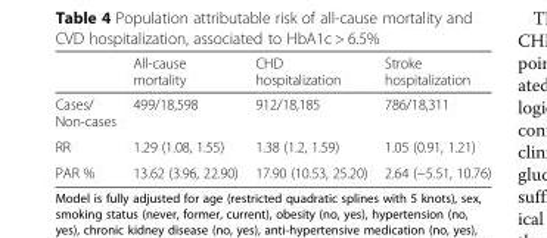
<table><thead><tr><td></td><td>All-cause mortality</td><td>CHD hospitalization</td><td>Stroke hospitalization</td></tr></thead><tbody><tr><td>Cases/ Non-cases</td><td>499/18,598</td><td>912/18,185</td><td>786/18,311</td></tr><tr><td>RR</td><td>1.29 (1.08, 1.55)</td><td>1.38 (1.2, 1.59)</td><td>1.05 (0.91, 1.21)</td></tr><tr><td>PAR %</td><td>13.62 (3.96, 22.90)</td><td>17.90 (10.53, 25.20)</td><td>2.64 (−5.51, 10.76)</td></tr></tbody></table>